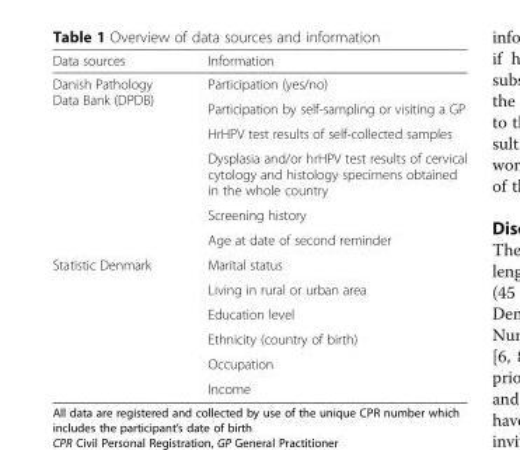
<table><thead><tr><td>Data sources</td><td>Information</td></tr></thead><tbody><tr><td rowspan="6">Danish Pathology Data Bank (DPDB)</td><td>Participation (yes/no)</td></tr><tr><td>Participation by self-sampling or visiting a GP</td></tr><tr><td>HrHPV test results of self-collected samples</td></tr><tr><td>Dysplasia and/or hrHPV test results of cervical cytology and histology specimens obtained in the whole country</td></tr><tr><td>Screening history</td></tr><tr><td>Age at date of second reminder</td></tr><tr><td rowspan="6">Statistic Denmark</td><td>Marital status</td></tr><tr><td>Living in rural or urban area</td></tr><tr><td>Education level</td></tr><tr><td>Ethnicity (country of birth)</td></tr><tr><td>Occupation</td></tr><tr><td>Income</td></tr></tbody></table>